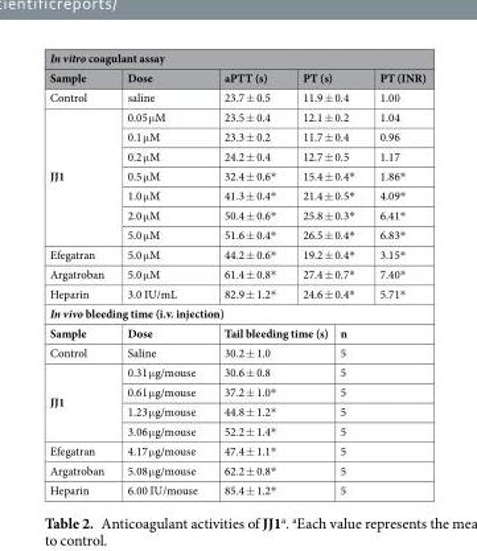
<table><thead><tr><td colspan="6">In vitro coagulant assay</td></tr><tr><td>Sample</td><td>Dose</td><td>aPTT (s)</td><td colspan="2">PT (s)</td><td>PT (INR)</td></tr></thead><tbody><tr><td>Control</td><td>saline</td><td>23.7 ± 0.5</td><td colspan="2">11.9 ± 0.4</td><td>1.00</td></tr><tr><td rowspan="7">JJ1</td><td>0.05 μM</td><td>23.5 ± 0.4</td><td colspan="2">12.1 ± 0.2</td><td>1.04</td></tr><tr><td>0.1 μM</td><td>23.3 ± 0.2</td><td colspan="2">11.7 ± 0.4</td><td>0.96</td></tr><tr><td>0.2 μM</td><td>24.2 ± 0.4</td><td colspan="2">12.7 ± 0.5</td><td>1.17</td></tr><tr><td>0.5 μM</td><td>32.4 ± 0.6*</td><td colspan="2">15.4 ± 0.4*</td><td>1.86*</td></tr><tr><td>1.0 μM</td><td>41.3 ± 0.4*</td><td colspan="2">21.4 ± 0.5*</td><td>4.09*</td></tr><tr><td>2.0 μM</td><td>50.4 ± 0.6*</td><td colspan="2">25.8 ± 0.3*</td><td>6.41*</td></tr><tr><td>5.0 μM</td><td>51.6 ± 0.4*</td><td colspan="2">26.5 ± 0.4*</td><td>6.83*</td></tr><tr><td>Efegatran</td><td>5.0 μM</td><td>44.2 ± 0.6*</td><td colspan="2">19.2 ± 0.4*</td><td>3.15*</td></tr><tr><td>Argatroban</td><td>5.0 μM</td><td>61.4 ± 0.8*</td><td colspan="2">27.4 ± 0.7*</td><td>7.40*</td></tr><tr><td>Heparin</td><td>3.0 IU/mL</td><td>82.9 ± 1.2*</td><td colspan="2">24.6 ± 0.4*</td><td>5.71*</td></tr><tr><td colspan="6">In vivo bleeding time (i.v. injection)</td></tr><tr><td>Sample</td><td>Dose</td><td colspan="2">Tail bleeding time (s)</td><td colspan="2">n</td></tr><tr><td>Control</td><td>Saline</td><td colspan="2">30.2 ± 1.0</td><td colspan="2">5</td></tr><tr><td rowspan="4">JJ1</td><td>0.31 μg/mouse</td><td colspan="2">30.6 ± 0.8</td><td colspan="2">5</td></tr><tr><td>0.61 μg/mouse</td><td colspan="2">37.2 ± 1.0*</td><td colspan="2">5</td></tr><tr><td>1.23 μg/mouse</td><td colspan="2">44.8 ± 1.2*</td><td colspan="2">5</td></tr><tr><td>3.06 μg/mouse</td><td colspan="2">52.2 ± 1.4*</td><td colspan="2">5</td></tr><tr><td>Efegatran</td><td>4.17 μg/mouse</td><td colspan="2">47.4 ± 1.1*</td><td colspan="2">5</td></tr><tr><td>Argatroban</td><td>5.08 μg/mouse</td><td colspan="2">62.2 ± 0.8*</td><td colspan="2">5</td></tr><tr><td>Heparin</td><td>6.00 IU/mouse</td><td colspan="2">85.4 ± 1.2*</td><td colspan="2">5</td></tr></tbody></table>